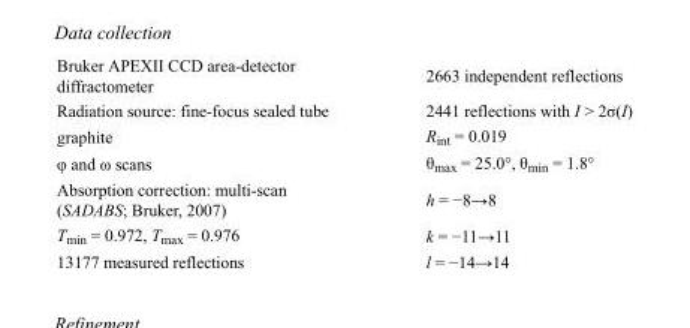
<table><tbody><tr><td>Bruker APEXII CCD area-detector diffractometer</td><td>2663 independent reflections</td></tr><tr><td>Radiation source: fine-focus sealed tube</td><td>2441 reflections with I &gt; 2σ(I)</td></tr><tr><td>graphite</td><td>R<sub>int</sub> = 0.019</td></tr><tr><td>φ and ω scans</td><td>θ<sub>max</sub> = 25.0°, θ<sub>min</sub> = 1.8°</td></tr><tr><td>Absorption correction: multi-scan (SADABS; Bruker, 2007)</td><td>h = −8→8</td></tr><tr><td>T<sub>min</sub> = 0.972, T<sub>max</sub> = 0.976</td><td>k = −11→11</td></tr><tr><td>13177 measured reflections</td><td>l = −14→14</td></tr></tbody></table>